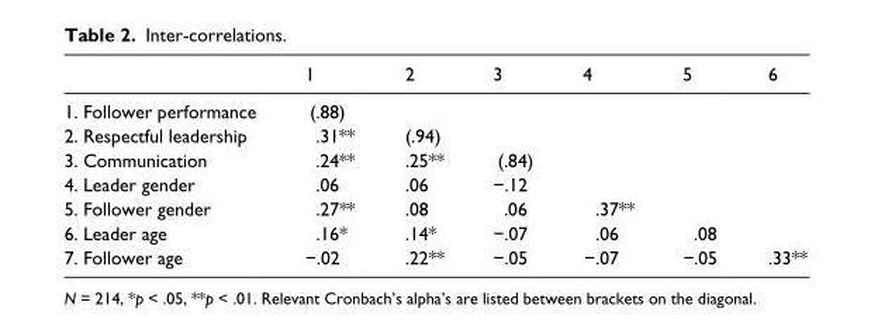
<table><thead><tr><td></td><td>1</td><td>2</td><td>3</td><td>4</td><td>5</td><td>6</td></tr></thead><tbody><tr><td>1. Follower performance</td><td>(.88)</td><td></td><td></td><td></td><td></td><td></td></tr><tr><td>2. Respectful leadership</td><td>.31**</td><td>(.94)</td><td></td><td></td><td></td><td></td></tr><tr><td>3. Communication</td><td>.24**</td><td>.25**</td><td>(.84)</td><td></td><td></td><td></td></tr><tr><td>4. Leader gender</td><td>.06</td><td>.06</td><td>−.12</td><td></td><td></td><td></td></tr><tr><td>5. Follower gender</td><td>.27**</td><td>.08</td><td>.06</td><td>.37**</td><td></td><td></td></tr><tr><td>6. Leader age</td><td>.16*</td><td>.14*</td><td>−.07</td><td>.06</td><td>.08</td><td></td></tr><tr><td>7. Follower age</td><td>−.02</td><td>.22**</td><td>−.05</td><td>−.07</td><td>−.05</td><td>.33**</td></tr></tbody></table>